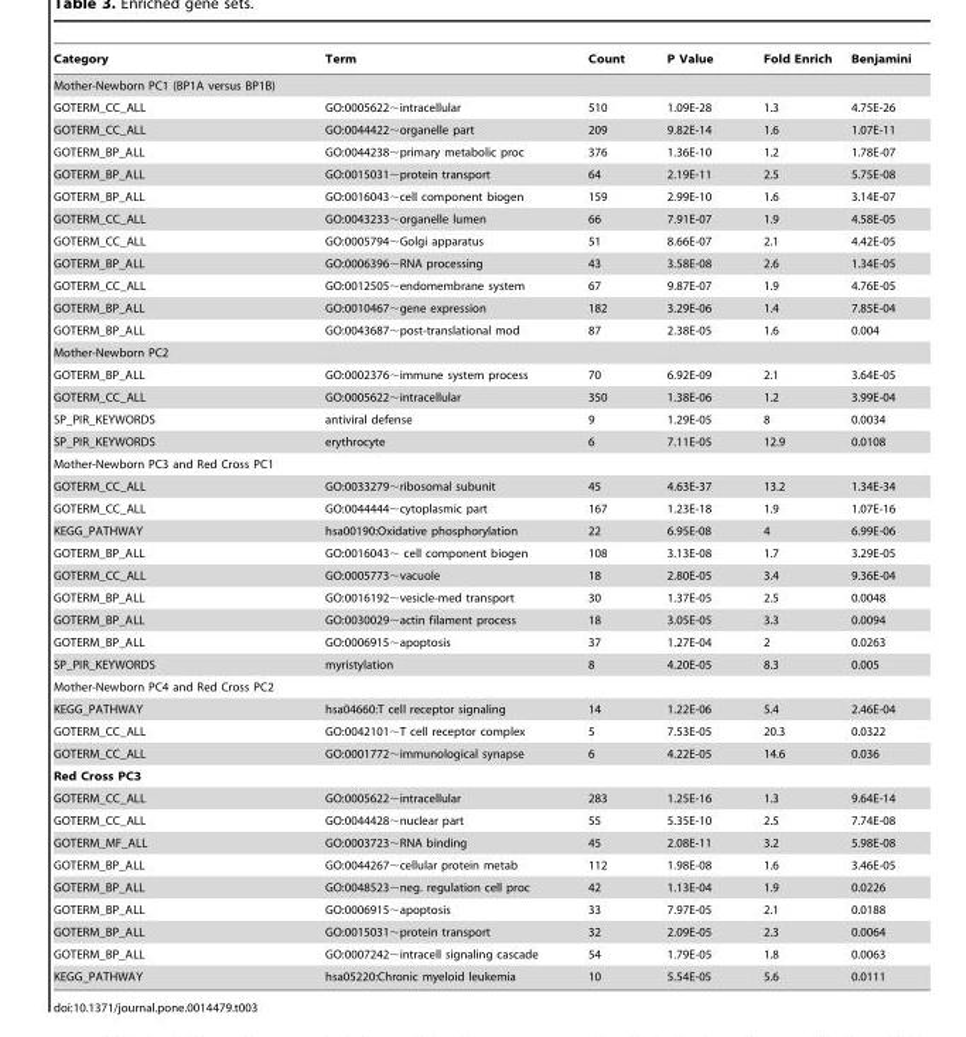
<table><thead><tr><td>Category</td><td>Term</td><td>Count</td><td>P Value</td><td>Fold Enrich</td><td>Benjamini</td></tr></thead><tbody><tr><td colspan="6">Mother-Newborn PC1 (BP1A versus BP1B)</td></tr><tr><td>GOTERM_CC_ALL</td><td>GO:0005622∼intracellular</td><td>510</td><td>1.09E-28</td><td>1.3</td><td>4.75E-26</td></tr><tr><td>GOTERM_CC_ALL</td><td>GO:0044422∼organelle part</td><td>209</td><td>9.82E-14</td><td>1.6</td><td>1.07E-11</td></tr><tr><td>GOTERM_BP_ALL</td><td>GO:0044238∼primary metabolic proc</td><td>376</td><td>1.36E-10</td><td>1.2</td><td>1.78E-07</td></tr><tr><td>GOTERM_BP_ALL</td><td>GO:0015031∼protein transport</td><td>64</td><td>2.19E-11</td><td>2.5</td><td>5.75E-08</td></tr><tr><td>GOTERM_BP_ALL</td><td>GO:0016043∼cell component biogen</td><td>159</td><td>2.99E-10</td><td>1.6</td><td>3.14E-07</td></tr><tr><td>GOTERM_CC_ALL</td><td>GO:0043233∼organelle lumen</td><td>66</td><td>7.91E-07</td><td>1.9</td><td>4.58E-05</td></tr><tr><td>GOTERM_CC_ALL</td><td>GO:0005794∼Golgi apparatus</td><td>51</td><td>8.66E-07</td><td>2.1</td><td>4.42E-05</td></tr><tr><td>GOTERM_BP_ALL</td><td>GO:0006396∼RNA processing</td><td>43</td><td>3.58E-08</td><td>2.6</td><td>1.34E-05</td></tr><tr><td>GOTERM_CC_ALL</td><td>GO:0012505∼endomembrane system</td><td>67</td><td>9.87E-07</td><td>1.9</td><td>4.76E-05</td></tr><tr><td>GOTERM_BP_ALL</td><td>GO:0010467∼gene expression</td><td>182</td><td>3.29E-06</td><td>1.4</td><td>7.85E-04</td></tr><tr><td>GOTERM_BP_ALL</td><td>GO:0043687∼post-translational mod</td><td>87</td><td>2.38E-05</td><td>1.6</td><td>0.004</td></tr><tr><td colspan="6">Mother-Newborn PC2</td></tr><tr><td>GOTERM_BP_ALL</td><td>GO:0002376∼immune system process</td><td>70</td><td>6.92E-09</td><td>2.1</td><td>3.64E-05</td></tr><tr><td>GOTERM_CC_ALL</td><td>GO:0005622∼intracellular</td><td>350</td><td>1.38E-06</td><td>1.2</td><td>3.99E-04</td></tr><tr><td>SP_PIR_KEYWORDS</td><td>antiviral defense</td><td>9</td><td>1.29E-05</td><td>8</td><td>0.0034</td></tr><tr><td>SP_PIR_KEYWORDS</td><td>erythrocyte</td><td>6</td><td>7.11E-05</td><td>12.9</td><td>0.0108</td></tr><tr><td colspan="6">Mother-Newborn PC3 and Red Cross PC1</td></tr><tr><td>GOTERM_CC_ALL</td><td>GO:0033279∼ribosomal subunit</td><td>45</td><td>4.63E-37</td><td>13.2</td><td>1.34E-34</td></tr><tr><td>GOTERM_CC_ALL</td><td>GO:0044444∼cytoplasmic part</td><td>167</td><td>1.23E-18</td><td>1.9</td><td>1.07E-16</td></tr><tr><td>KEGG_PATHWAY</td><td>hsa00190:Oxidative phosphorylation</td><td>22</td><td>6.95E-08</td><td>4</td><td>6.99E-06</td></tr><tr><td>GOTERM_BP_ALL</td><td>GO:0016043∼ cell component biogen</td><td>108</td><td>3.13E-08</td><td>1.7</td><td>3.29E-05</td></tr><tr><td>GOTERM_CC_ALL</td><td>GO:0005773∼vacuole</td><td>18</td><td>2.80E-05</td><td>3.4</td><td>9.36E-04</td></tr><tr><td>GOTERM_BP_ALL</td><td>GO:0016192∼vesicle-med transport</td><td>30</td><td>1.37E-05</td><td>2.5</td><td>0.0048</td></tr><tr><td>GOTERM_BP_ALL</td><td>GO:0030029∼actin filament process</td><td>18</td><td>3.05E-05</td><td>3.3</td><td>0.0094</td></tr><tr><td>GOTERM_BP_ALL</td><td>GO:0006915∼apoptosis</td><td>37</td><td>1.27E-04</td><td>2</td><td>0.0263</td></tr><tr><td>SP_PIR_KEYWORDS</td><td>myristylation</td><td>8</td><td>4.20E-05</td><td>8.3</td><td>0.005</td></tr><tr><td colspan="6">Mother-Newborn PC4 and Red Cross PC2</td></tr><tr><td>KEGG_PATHWAY</td><td>hsa04660:T cell receptor signaling</td><td>14</td><td>1.22E-06</td><td>5.4</td><td>2.46E-04</td></tr><tr><td>GOTERM_CC_ALL</td><td>GO:0042101∼T cell receptor complex</td><td>5</td><td>7.53E-05</td><td>20.3</td><td>0.0322</td></tr><tr><td>GOTERM_CC_ALL</td><td>GO:0001772∼immunological synapse</td><td>6</td><td>4.22E-05</td><td>14.6</td><td>0.036</td></tr><tr><td colspan="6">Red Cross PC3</td></tr><tr><td>GOTERM_CC_ALL</td><td>GO:0005622∼intracellular</td><td>283</td><td>1.25E-16</td><td>1.3</td><td>9.64E-14</td></tr><tr><td>GOTERM_CC_ALL</td><td>GO:0044428∼nuclear part</td><td>55</td><td>5.35E-10</td><td>2.5</td><td>7.74E-08</td></tr><tr><td>GOTERM_MF_ALL</td><td>GO:0003723∼RNA binding</td><td>45</td><td>2.08E-11</td><td>3.2</td><td>5.98E-08</td></tr><tr><td>GOTERM_BP_ALL</td><td>GO:0044267∼cellular protein metab</td><td>112</td><td>1.98E-08</td><td>1.6</td><td>3.46E-05</td></tr><tr><td>GOTERM_BP_ALL</td><td>GO:0048523∼neg. regulation cell proc</td><td>42</td><td>1.13E-04</td><td>1.9</td><td>0.0226</td></tr><tr><td>GOTERM_BP_ALL</td><td>GO:0006915∼apoptosis</td><td>33</td><td>7.97E-05</td><td>2.1</td><td>0.0188</td></tr><tr><td>GOTERM_BP_ALL</td><td>GO:0015031∼protein transport</td><td>32</td><td>2.09E-05</td><td>2.3</td><td>0.0064</td></tr><tr><td>GOTERM_BP_ALL</td><td>GO:0007242∼intracell signaling cascade</td><td>54</td><td>1.79E-05</td><td>1.8</td><td>0.0063</td></tr><tr><td>KEGG_PATHWAY</td><td>hsa05220:Chronic myeloid leukemia</td><td>10</td><td>5.54E-05</td><td>5.6</td><td>0.0111</td></tr></tbody></table>